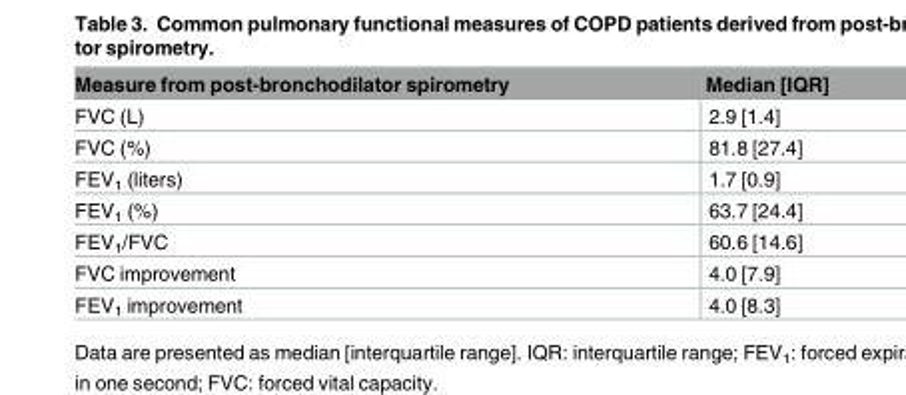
<table><thead><tr><td>Measure from post-bronchodilator spirometry</td><td>Median [IQR]</td></tr></thead><tbody><tr><td>FVC (L)</td><td>2.9 [1.4]</td></tr><tr><td>FVC (%)</td><td>81.8 [27.4]</td></tr><tr><td>FEV<sub>1</sub> (liters)</td><td>1.7 [0.9]</td></tr><tr><td>FEV<sub>1</sub> (%)</td><td>63.7 [24.4]</td></tr><tr><td>FEV<sub>1</sub>/FVC</td><td>60.6 [14.6]</td></tr><tr><td>FVC improvement</td><td>4.0 [7.9]</td></tr><tr><td>FEV<sub>1</sub> improvement</td><td>4.0 [8.3]</td></tr></tbody></table>